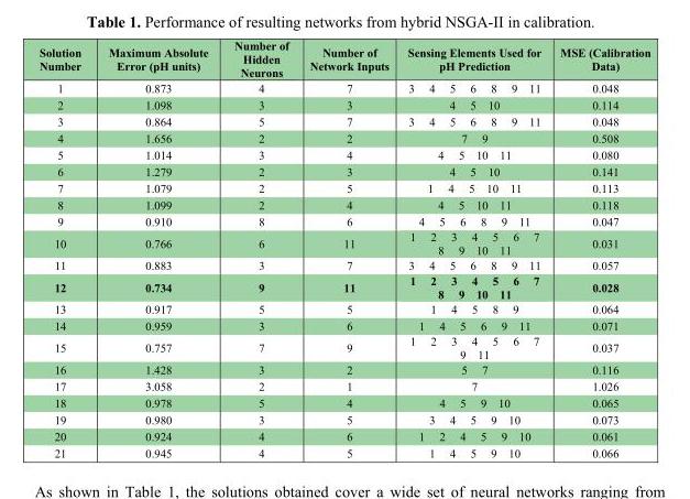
<table><thead><tr><td>Solution Number</td><td>Maximum Absolute Error (pH units)</td><td>Number of Hidden Neurons</td><td>Number of Network Inputs</td><td>Sensing Elements Used for pH Prediction</td><td>MSE (Calibration Data)</td></tr></thead><tbody><tr><td>1</td><td>0.873</td><td>4</td><td>7</td><td>3 4 5 6 8 9 11</td><td>0.048</td></tr><tr><td>2</td><td>1.098</td><td>3</td><td>3</td><td>4 5 10</td><td>0.114</td></tr><tr><td>3</td><td>0.864</td><td>5</td><td>7</td><td>3 4 5 6 8 9 11</td><td>0.048</td></tr><tr><td>4</td><td>1.656</td><td>2</td><td>2</td><td>7 9</td><td>0.508</td></tr><tr><td>5</td><td>1.014</td><td>3</td><td>4</td><td>4 5 10 11</td><td>0.080</td></tr><tr><td>6</td><td>1.279</td><td>2</td><td>3</td><td>4 5 10</td><td>0.141</td></tr><tr><td>7</td><td>1.079</td><td>2</td><td>5</td><td>1 4 5 10 11</td><td>0.113</td></tr><tr><td>8</td><td>1.099</td><td>2</td><td>4</td><td>4 5 10 11</td><td>0.118</td></tr><tr><td>9</td><td>0.910</td><td>8</td><td>6</td><td>4 5 6 8 9 11</td><td>0.047</td></tr><tr><td>10</td><td>0.766</td><td>6</td><td>11</td><td>1 2 3 4 5 6 7 8 9 10 11</td><td>0.031</td></tr><tr><td>11</td><td>0.883</td><td>3</td><td>7</td><td>3 4 5 6 8 9 11</td><td>0.057</td></tr><tr><td>12</td><td>0.734</td><td>9</td><td>11</td><td>1 2 3 4 5 6 7 8 9 10 11</td><td>0.028</td></tr><tr><td>13</td><td>0.917</td><td>5</td><td>5</td><td>1 4 5 8 9</td><td>0.064</td></tr><tr><td>14</td><td>0.959</td><td>3</td><td>6</td><td>1 4 5 6 9 11</td><td>0.071</td></tr><tr><td>15</td><td>0.757</td><td>7</td><td>9</td><td>1 2 3 4 5 6 7 9 11</td><td>0.037</td></tr><tr><td>16</td><td>1.428</td><td>3</td><td>2</td><td>5 7</td><td>0.116</td></tr><tr><td>17</td><td>3.058</td><td>2</td><td>1</td><td>7</td><td>1.026</td></tr><tr><td>18</td><td>0.978</td><td>5</td><td>4</td><td>4 5 9 10</td><td>0.065</td></tr><tr><td>19</td><td>0.980</td><td>3</td><td>5</td><td>3 4 5 9 10</td><td>0.073</td></tr><tr><td>20</td><td>0.924</td><td>4</td><td>6</td><td>1 2 4 5 9 10</td><td>0.061</td></tr><tr><td>21</td><td>0.945</td><td>4</td><td>5</td><td>1 4 5 9 10</td><td>0.066</td></tr></tbody></table>